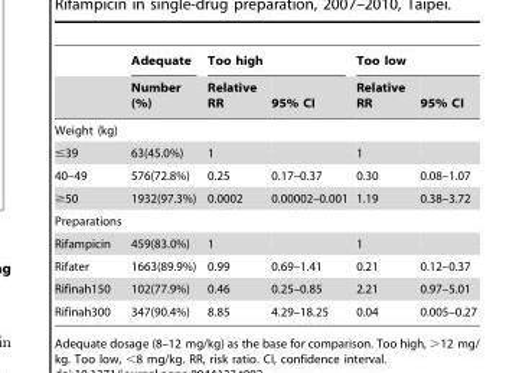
<table><thead><tr><td rowspan="2"></td><td rowspan="2">Adequate Number (%)</td><td colspan="2">Too high</td><td colspan="2">Too low</td></tr><tr><td>Relative RR</td><td>95% CI</td><td>Relative RR</td><td>95% CI</td></tr></thead><tbody><tr><td colspan="6">Weight (kg)</td></tr><tr><td>≤39</td><td>63(45.0%)</td><td>1</td><td></td><td>1</td><td></td></tr><tr><td>40–49</td><td>576(72.8%)</td><td>0.25</td><td>0.17–0.37</td><td>0.30</td><td>0.08–1.07</td></tr><tr><td>≥50</td><td>1932(97.3%)</td><td>0.0002</td><td>0.00002–0.001</td><td>1.19</td><td>0.38–3.72</td></tr><tr><td colspan="6">Preparations</td></tr><tr><td>Rifampicin</td><td>459(83.0%)</td><td>1</td><td></td><td>1</td><td></td></tr><tr><td>Rifater</td><td>1663(89.9%)</td><td>0.99</td><td>0.69–1.41</td><td>0.21</td><td>0.12–0.37</td></tr><tr><td>Rifinah150</td><td>102(77.9%)</td><td>0.46</td><td>0.25–0.85</td><td>2.21</td><td>0.97–5.01</td></tr><tr><td>Rifinah300</td><td>347(90.4%)</td><td>8.85</td><td>4.29–18.25</td><td>0.04</td><td>0.005–0.27</td></tr></tbody></table>